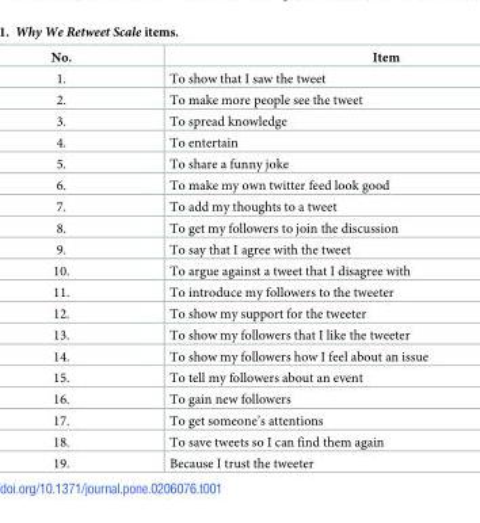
<table><thead><tr><td>No.</td><td>Item</td></tr></thead><tbody><tr><td>1.</td><td>To show that I saw the tweet</td></tr><tr><td>2.</td><td>To make more people see the tweet</td></tr><tr><td>3.</td><td>To spread knowledge</td></tr><tr><td>4.</td><td>To entertain</td></tr><tr><td>5.</td><td>To share a funny joke</td></tr><tr><td>6.</td><td>To make my own twitter feed look good</td></tr><tr><td>7.</td><td>To add my thoughts to a tweet</td></tr><tr><td>8.</td><td>To get my followers to join the discussion</td></tr><tr><td>9.</td><td>To say that I agree with the tweet</td></tr><tr><td>10.</td><td>To argue against a tweet that I disagree with</td></tr><tr><td>11.</td><td>To introduce my followers to the tweeter</td></tr><tr><td>12.</td><td>To show my support for the tweeter</td></tr><tr><td>13.</td><td>To show my followers that I like the tweeter</td></tr><tr><td>14.</td><td>To show my followers how I feel about an issue</td></tr><tr><td>15.</td><td>To tell my followers about an event</td></tr><tr><td>16.</td><td>To gain new followers</td></tr><tr><td>17.</td><td>To get someone’s attentions</td></tr><tr><td>18.</td><td>To save tweets so I can find them again</td></tr><tr><td>19.</td><td>Because I trust the tweeter</td></tr></tbody></table>